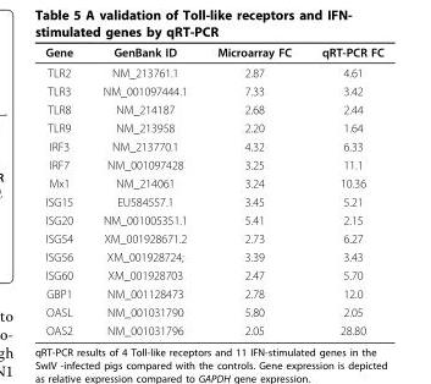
<table><thead><tr><td>Gene</td><td>GenBank ID</td><td>Microarray FC</td><td>qRT-PCR FC</td></tr></thead><tbody><tr><td>TLR2</td><td>NM_213761.1</td><td>2.87</td><td>4.61</td></tr><tr><td>TLR3</td><td>NM_001097444.1</td><td>7.33</td><td>3.42</td></tr><tr><td>TLR8</td><td>NM_214187</td><td>2.68</td><td>2.44</td></tr><tr><td>TLR9</td><td>NM_213958</td><td>2.20</td><td>1.64</td></tr><tr><td>IRF3</td><td>NM_213770.1</td><td>4.32</td><td>6.33</td></tr><tr><td>IRF7</td><td>NM_001097428</td><td>3.25</td><td>11.1</td></tr><tr><td>Mx1</td><td>NM_214061</td><td>3.24</td><td>10.36</td></tr><tr><td>ISG15</td><td>EU584557.1</td><td>3.45</td><td>5.21</td></tr><tr><td>ISG20</td><td>NM_001005351.1</td><td>5.41</td><td>2.15</td></tr><tr><td>ISG54</td><td>XM_001928671.2</td><td>2.73</td><td>6.27</td></tr><tr><td>ISG56</td><td>XM_001928724;</td><td>3.39</td><td>3.43</td></tr><tr><td>ISG60</td><td>XM_001928703</td><td>2.47</td><td>5.70</td></tr><tr><td>GBP1</td><td>NM_001128473</td><td>2.78</td><td>12.0</td></tr><tr><td>OASL</td><td>NM_001031790</td><td>5.80</td><td>2.05</td></tr><tr><td>OAS2</td><td>NM_001031796</td><td>2.05</td><td>28.80</td></tr></tbody></table>